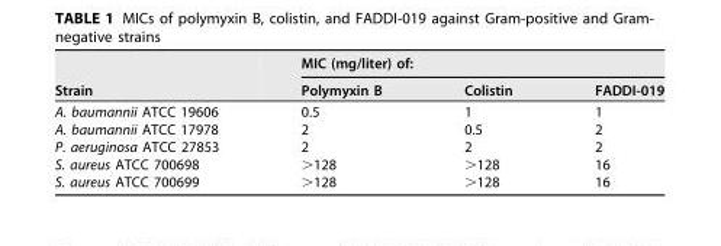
<table><thead><tr><td rowspan="2">Strain</td><td colspan="3">MIC (mg/liter) of:</td></tr><tr><td>Polymyxin B</td><td>Colistin</td><td>FADDI-019</td></tr></thead><tbody><tr><td>A. baumannii ATCC 19606</td><td>0.5</td><td>1</td><td>1</td></tr><tr><td>A. baumannii ATCC 17978</td><td>2</td><td>0.5</td><td>2</td></tr><tr><td>P. aeruginosa ATCC 27853</td><td>2</td><td>2</td><td>2</td></tr><tr><td>S. aureus ATCC 700698</td><td>&gt;128</td><td>&gt;128</td><td>16</td></tr><tr><td>S. aureus ATCC 700699</td><td>&gt;128</td><td>&gt;128</td><td>16</td></tr></tbody></table>